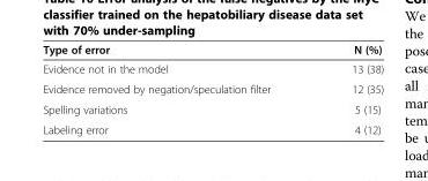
<table><thead><tr><td>Type of error</td><td>N (%)</td></tr></thead><tbody><tr><td>Evidence not in the model</td><td>13 (38)</td></tr><tr><td>Evidence removed by negation/speculation filter</td><td>12 (35)</td></tr><tr><td>Spelling variations</td><td>5 (15)</td></tr><tr><td>Labeling error</td><td>4 (12)</td></tr></tbody></table>